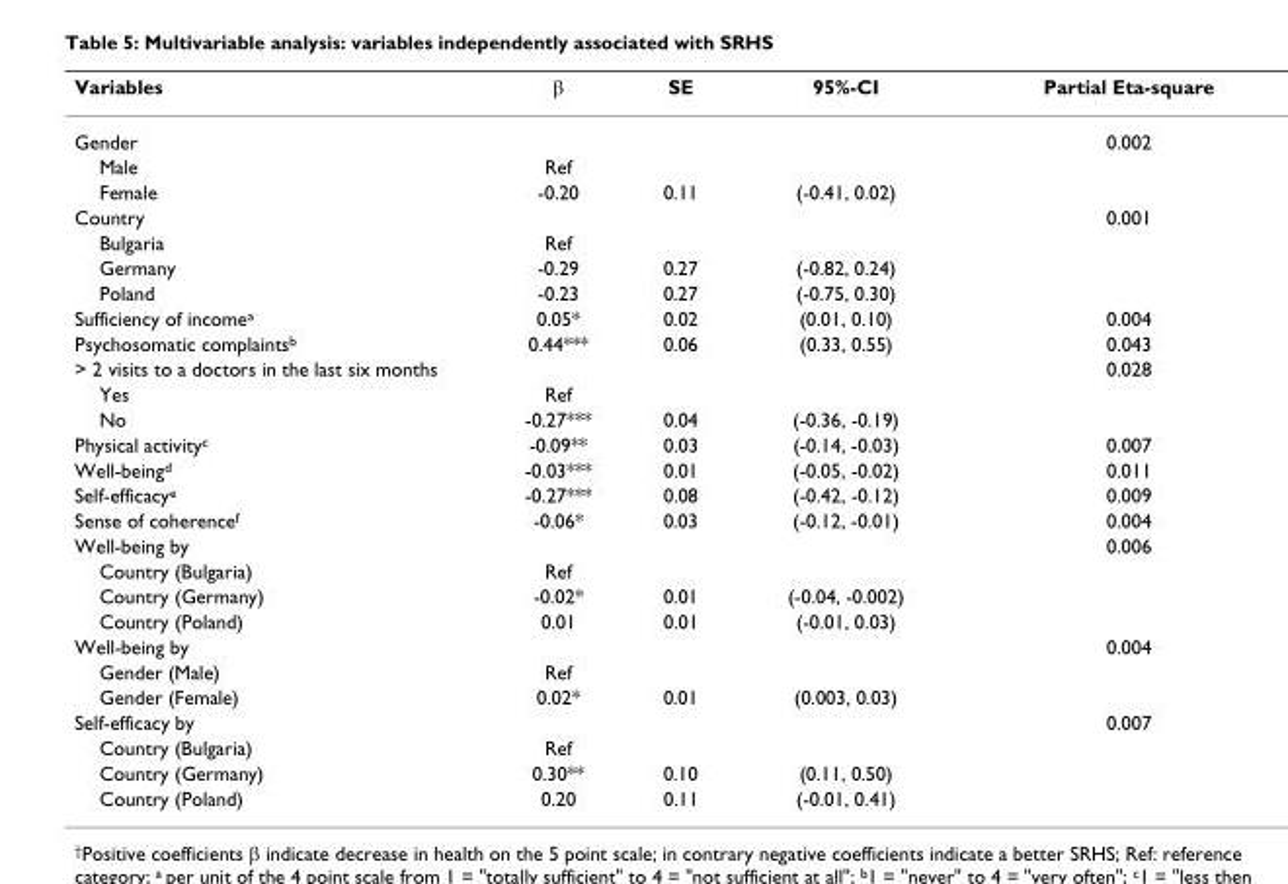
<table><thead><tr><td>Variables</td><td>β</td><td>SE</td><td>95%-CI</td><td>Partial Eta-square</td></tr></thead><tbody><tr><td>Gender</td><td></td><td></td><td></td><td>0.002</td></tr><tr><td>Male</td><td>Ref</td><td></td><td></td><td></td></tr><tr><td>Female</td><td>-0.20</td><td>0.11</td><td>(-0.41, 0.02)</td><td></td></tr><tr><td>Country</td><td></td><td></td><td></td><td>0.001</td></tr><tr><td>Bulgaria</td><td>Ref</td><td></td><td></td><td></td></tr><tr><td>Germany</td><td>-0.29</td><td>0.27</td><td>(-0.82, 0.24)</td><td></td></tr><tr><td>Poland</td><td>-0.23</td><td>0.27</td><td>(-0.75, 0.30)</td><td></td></tr><tr><td>Sufficiency of income<sup>a</sup></td><td>0.05*</td><td>0.02</td><td>(0.01, 0.10)</td><td>0.004</td></tr><tr><td>Psychosomatic complaints<sup>b</sup></td><td>0.44***</td><td>0.06</td><td>(0.33, 0.55)</td><td>0.043</td></tr><tr><td colspan="4">&gt; 2 visits to a doctors in the last six months</td><td>0.028</td></tr><tr><td>Yes</td><td>Ref</td><td></td><td></td><td></td></tr><tr><td>No</td><td>-0.27***</td><td>0.04</td><td>(-0.36, -0.19)</td><td></td></tr><tr><td>Physical activity<sup>c</sup></td><td>-0.09**</td><td>0.03</td><td>(-0.14, -0.03)</td><td>0.007</td></tr><tr><td>Well-being<sup>d</sup></td><td>-0.03***</td><td>0.01</td><td>(-0.05, -0.02)</td><td>0.011</td></tr><tr><td>Self-efficacy<sup>e</sup></td><td>-0.27***</td><td>0.08</td><td>(-0.42, -0.12)</td><td>0.009</td></tr><tr><td>Sense of coherence<sup>f</sup></td><td>-0.06*</td><td>0.03</td><td>(-0.12, -0.01)</td><td>0.004</td></tr><tr><td>Well-being by</td><td></td><td></td><td></td><td>0.006</td></tr><tr><td>Country (Bulgaria)</td><td>Ref</td><td></td><td></td><td></td></tr><tr><td>Country (Germany)</td><td>-0.02*</td><td>0.01</td><td>(-0.04, -0.002)</td><td></td></tr><tr><td>Country (Poland)</td><td>0.01</td><td>0.01</td><td>(-0.01, 0.03)</td><td></td></tr><tr><td>Well-being by</td><td></td><td></td><td></td><td>0.004</td></tr><tr><td>Gender (Male)</td><td>Ref</td><td></td><td></td><td></td></tr><tr><td>Gender (Female)</td><td>0.02*</td><td>0.01</td><td>(0.003, 0.03)</td><td></td></tr><tr><td>Self-efficacy by</td><td></td><td></td><td></td><td>0.007</td></tr><tr><td>Country (Bulgaria)</td><td>Ref</td><td></td><td></td><td></td></tr><tr><td>Country (Germany)</td><td>0.30**</td><td>0.10</td><td>(0.11, 0.50)</td><td></td></tr><tr><td>Country (Poland)</td><td>0.20</td><td>0.11</td><td>(-0.01, 0.41)</td><td></td></tr></tbody></table>